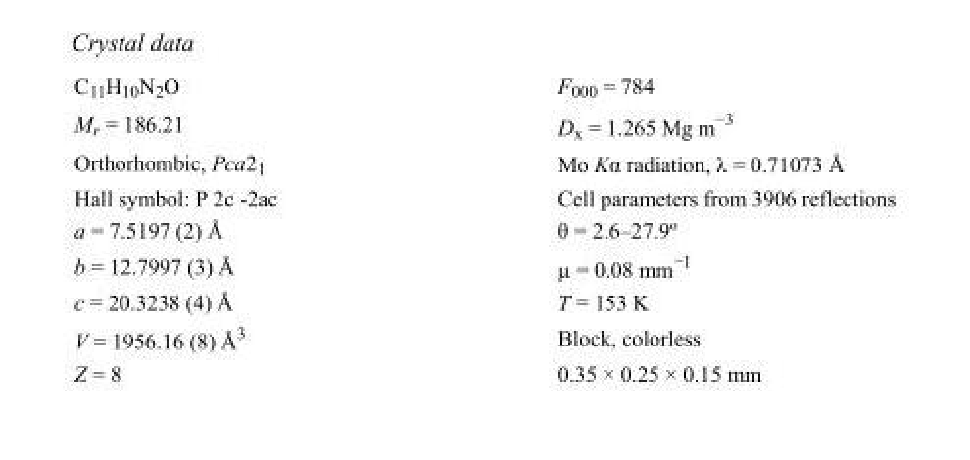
<table><tbody><tr><td>C<sub>11</sub>H<sub>10</sub>N<sub>2</sub>O</td><td>F000 = 784</td></tr><tr><td>M<sub>r</sub> = 186.21</td><td>D<sub>x</sub> = 1.265 Mg m<sup>−3</sup></td></tr><tr><td>Orthorhombic, Pca2<sub>1</sub></td><td>Mo Kα radiation, λ = 0.71073 Å</td></tr><tr><td>Hall symbol: P 2c -2ac</td><td>Cell parameters from 3906 reflections</td></tr><tr><td>a = 7.5197 (2) Å</td><td>θ = 2.6–27.9º</td></tr><tr><td>b = 12.7997 (3) Å</td><td>µ = 0.08 mm<sup>−1</sup></td></tr><tr><td>c = 20.3238 (4) Å</td><td>T = 153 K</td></tr><tr><td>V = 1956.16 (8) Å<sup>3</sup></td><td>Block, colorless</td></tr><tr><td>Z = 8</td><td>0.35 × 0.25 × 0.15 mm</td></tr></tbody></table>